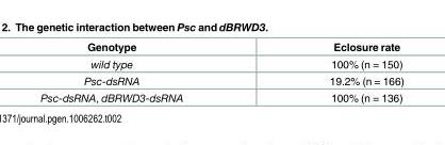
<table><thead><tr><td>Genotype</td><td>Eclosure rate</td></tr></thead><tbody><tr><td>wild type</td><td>100% (n = 150)</td></tr><tr><td>Psc-dsRNA</td><td>19.2% (n = 166)</td></tr><tr><td>Psc-dsRNA, dBRWD3-dsRNA</td><td>100% (n = 136)</td></tr></tbody></table>